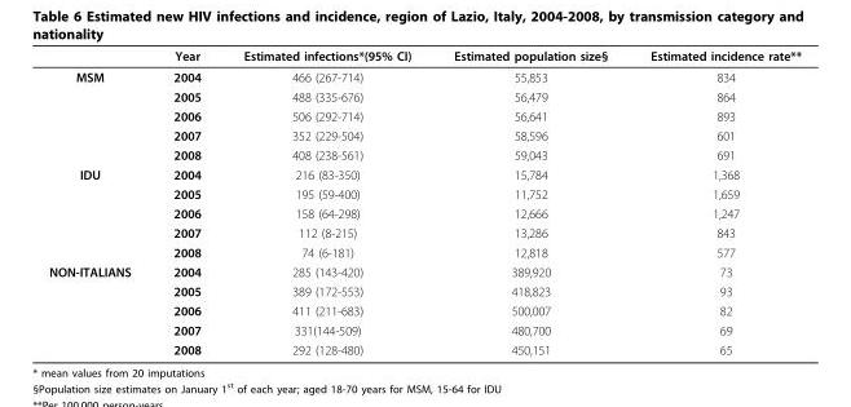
<table><thead><tr><td></td><td>Year</td><td>Estimated infections*(95% CI)</td><td>Estimated population size§</td><td>Estimated incidence rate**</td></tr></thead><tbody><tr><td rowspan="5">MSM</td><td>2004</td><td>466 (267-714)</td><td>55,853</td><td>834</td></tr><tr><td>2005</td><td>488 (335-676)</td><td>56,479</td><td>864</td></tr><tr><td>2006</td><td>506 (292-714)</td><td>56,641</td><td>893</td></tr><tr><td>2007</td><td>352 (229-504)</td><td>58,596</td><td>601</td></tr><tr><td>2008</td><td>408 (238-561)</td><td>59,043</td><td>691</td></tr><tr><td rowspan="5">IDU</td><td>2004</td><td>216 (83-350)</td><td>15,784</td><td>1,368</td></tr><tr><td>2005</td><td>195 (59-400)</td><td>11,752</td><td>1,659</td></tr><tr><td>2006</td><td>158 (64-298)</td><td>12,666</td><td>1,247</td></tr><tr><td>2007</td><td>112 (8-215)</td><td>13,286</td><td>843</td></tr><tr><td>2008</td><td>74 (6-181)</td><td>12,818</td><td>577</td></tr><tr><td rowspan="5">NON-ITALIANS</td><td>2004</td><td>285 (143-420)</td><td>389,920</td><td>73</td></tr><tr><td>2005</td><td>389 (172-553)</td><td>418,823</td><td>93</td></tr><tr><td>2006</td><td>411 (211-683)</td><td>500,007</td><td>82</td></tr><tr><td>2007</td><td>331(144-509)</td><td>480,700</td><td>69</td></tr><tr><td>2008</td><td>292 (128-480)</td><td>450,151</td><td>65</td></tr></tbody></table>